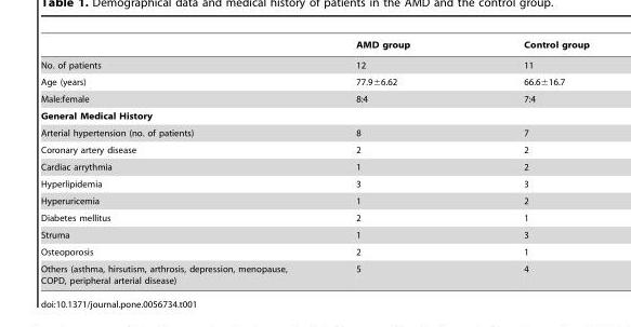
<table><thead><tr><td></td><td>AMD group</td><td>Control group</td></tr></thead><tbody><tr><td>No. of patients</td><td>12</td><td>11</td></tr><tr><td>Age (years)</td><td>77.9±6.62</td><td>66.6±16.7</td></tr><tr><td>Male:female</td><td>8:4</td><td>7:4</td></tr><tr><td colspan="3">General Medical History</td></tr><tr><td>Arterial hypertension (no. of patients)</td><td>8</td><td>7</td></tr><tr><td>Coronary artery disease</td><td>2</td><td>2</td></tr><tr><td>Cardiac arrythmia</td><td>1</td><td>2</td></tr><tr><td>Hyperlipidemia</td><td>3</td><td>3</td></tr><tr><td>Hyperuricemia</td><td>1</td><td>2</td></tr><tr><td>Diabetes mellitus</td><td>2</td><td>1</td></tr><tr><td>Struma</td><td>1</td><td>3</td></tr><tr><td>Osteoporosis</td><td>2</td><td>1</td></tr><tr><td>Others (asthma, hirsutism, arthrosis, depression, menopause, COPD, peripheral arterial disease)</td><td>5</td><td>4</td></tr></tbody></table>